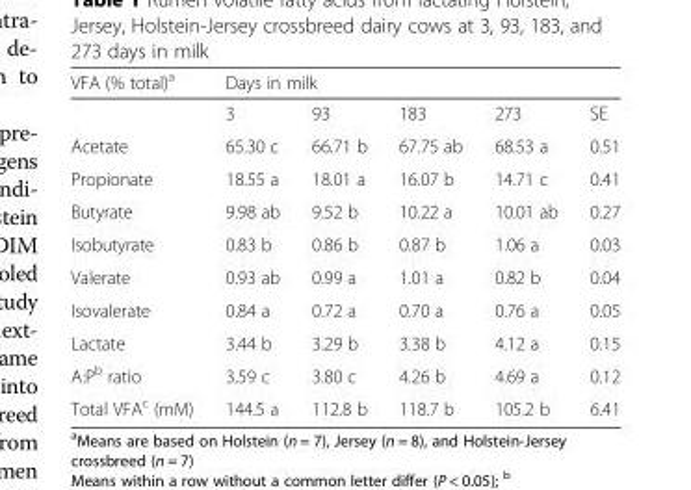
<table><thead><tr><td rowspan="2">VFA (% total)<sup>a</sup></td><td colspan="5">Days in milk</td></tr><tr><td>3</td><td>93</td><td>183</td><td>273</td><td>SE</td></tr></thead><tbody><tr><td>Acetate</td><td>65.30 c</td><td>66.71 b</td><td>67.75 ab</td><td>68.53 a</td><td>0.51</td></tr><tr><td>Propionate</td><td>18.55 a</td><td>18.01 a</td><td>16.07 b</td><td>14.71 c</td><td>0.41</td></tr><tr><td>Butyrate</td><td>9.98 ab</td><td>9.52 b</td><td>10.22 a</td><td>10.01 ab</td><td>0.27</td></tr><tr><td>Isobutyrate</td><td>0.83 b</td><td>0.86 b</td><td>0.87 b</td><td>1.06 a</td><td>0.03</td></tr><tr><td>Valerate</td><td>0.93 ab</td><td>0.99 a</td><td>1.01 a</td><td>0.82 b</td><td>0.04</td></tr><tr><td>Isovalerate</td><td>0.84 a</td><td>0.72 a</td><td>0.70 a</td><td>0.76 a</td><td>0.05</td></tr><tr><td>Lactate</td><td>3.44 b</td><td>3.29 b</td><td>3.38 b</td><td>4.12 a</td><td>0.15</td></tr><tr><td>A:P<sup>b</sup> ratio</td><td>3.59 c</td><td>3.80 c</td><td>4.26 b</td><td>4.69 a</td><td>0.12</td></tr><tr><td>Total VFA<sup>c</sup> (mM)</td><td>144.5 a</td><td>112.8 b</td><td>118.7 b</td><td>105.2 b</td><td>6.41</td></tr></tbody></table>